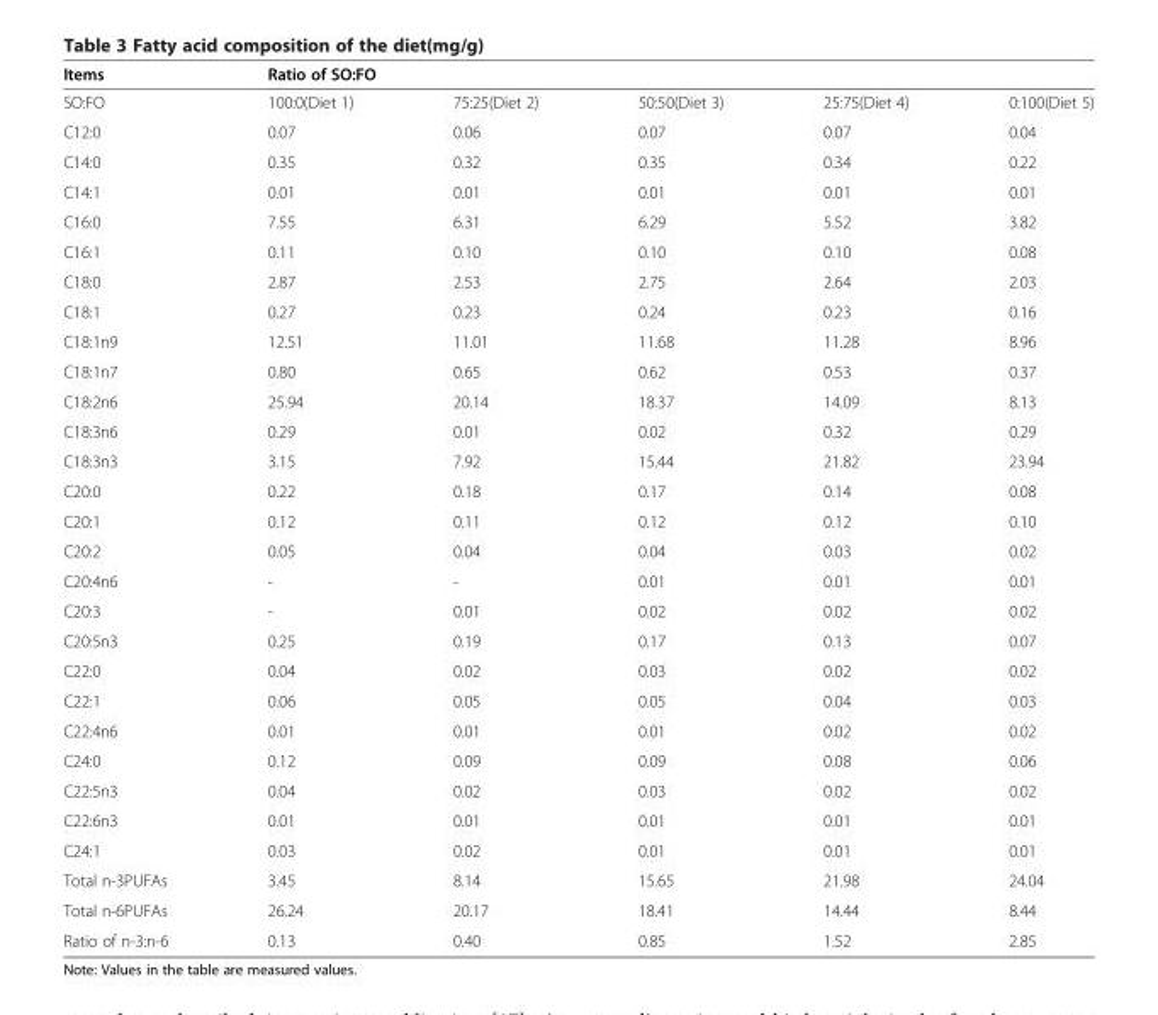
<table><thead><tr><td rowspan="2">Items SO:FO</td><td colspan="5">Ratio of SO:FO</td></tr><tr><td>100:0(Diet 1)</td><td>75:25(Diet 2)</td><td>50:50(Diet 3)</td><td>25:75(Diet 4)</td><td>0:100(Diet 5)</td></tr></thead><tbody><tr><td>C12:0</td><td>0.07</td><td>0.06</td><td>0.07</td><td>0.07</td><td>0.04</td></tr><tr><td>C14:0</td><td>0.35</td><td>0.32</td><td>0.35</td><td>0.34</td><td>0.22</td></tr><tr><td>C14:1</td><td>0.01</td><td>0.01</td><td>0.01</td><td>0.01</td><td>0.01</td></tr><tr><td>C16:0</td><td>7.55</td><td>6.31</td><td>6.29</td><td>5.52</td><td>3.82</td></tr><tr><td>C16:1</td><td>0.11</td><td>0.10</td><td>0.10</td><td>0.10</td><td>0.08</td></tr><tr><td>C18:0</td><td>2.87</td><td>2.53</td><td>2.75</td><td>2.64</td><td>2.03</td></tr><tr><td>C18:1</td><td>0.27</td><td>0.23</td><td>0.24</td><td>0.23</td><td>0.16</td></tr><tr><td>C18:1n9</td><td>12.51</td><td>11.01</td><td>11.68</td><td>11.28</td><td>8.96</td></tr><tr><td>C18:1n7</td><td>0.80</td><td>0.65</td><td>0.62</td><td>0.53</td><td>0.37</td></tr><tr><td>C18:2n6</td><td>25.94</td><td>20.14</td><td>18.37</td><td>14.09</td><td>8.13</td></tr><tr><td>C18:3n6</td><td>0.29</td><td>0.01</td><td>0.02</td><td>0.32</td><td>0.29</td></tr><tr><td>C18:3n3</td><td>3.15</td><td>7.92</td><td>15.44</td><td>21.82</td><td>23.94</td></tr><tr><td>C20:0</td><td>0.22</td><td>0.18</td><td>0.17</td><td>0.14</td><td>0.08</td></tr><tr><td>C20:1</td><td>0.12</td><td>0.11</td><td>0.12</td><td>0.12</td><td>0.10</td></tr><tr><td>C20:2</td><td>0.05</td><td>0.04</td><td>0.04</td><td>0.03</td><td>0.02</td></tr><tr><td>C20:4n6</td><td>-</td><td>-</td><td>0.01</td><td>0.01</td><td>0.01</td></tr><tr><td>C20:3</td><td>-</td><td>0.01</td><td>0.02</td><td>0.02</td><td>0.02</td></tr><tr><td>C20:5n3</td><td>0.25</td><td>0.19</td><td>0.17</td><td>0.13</td><td>0.07</td></tr><tr><td>C22:0</td><td>0.04</td><td>0.02</td><td>0.03</td><td>0.02</td><td>0.02</td></tr><tr><td>C22:1</td><td>0.06</td><td>0.05</td><td>0.05</td><td>0.04</td><td>0.03</td></tr><tr><td>C22:4n6</td><td>0.01</td><td>0.01</td><td>0.01</td><td>0.02</td><td>0.02</td></tr><tr><td>C24:0</td><td>0.12</td><td>0.09</td><td>0.09</td><td>0.08</td><td>0.06</td></tr><tr><td>C22:5n3</td><td>0.04</td><td>0.02</td><td>0.03</td><td>0.02</td><td>0.02</td></tr><tr><td>C22:6n3</td><td>0.01</td><td>0.01</td><td>0.01</td><td>0.01</td><td>0.01</td></tr><tr><td>C24:1</td><td>0.03</td><td>0.02</td><td>0.01</td><td>0.01</td><td>0.01</td></tr><tr><td>Total n-3PUFAs</td><td>3.45</td><td>8.14</td><td>15.65</td><td>21.98</td><td>24.04</td></tr><tr><td>Total n-6PUFAs</td><td>26.24</td><td>20.17</td><td>18.41</td><td>14.44</td><td>8.44</td></tr><tr><td>Ratio of n-3:n-6</td><td>0.13</td><td>0.40</td><td>0.85</td><td>1.52</td><td>2.85</td></tr></tbody></table>